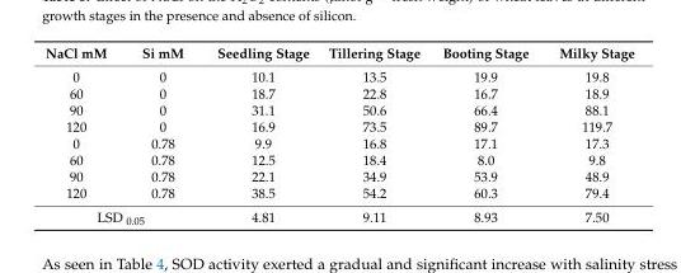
<table><thead><tr><td>NaCl mM</td><td>Si mM</td><td>Seedling Stage</td><td>Tillering Stage</td><td>Booting Stage</td><td>Milky Stage</td></tr></thead><tbody><tr><td>0</td><td>0</td><td>10.1</td><td>13.5</td><td>19.9</td><td>19.8</td></tr><tr><td>60</td><td>0</td><td>18.7</td><td>22.8</td><td>16.7</td><td>18.9</td></tr><tr><td>90</td><td>0</td><td>31.1</td><td>50.6</td><td>66.4</td><td>88.1</td></tr><tr><td>120</td><td>0</td><td>16.9</td><td>73.5</td><td>89.7</td><td>119.7</td></tr><tr><td>0</td><td>0.78</td><td>9.9</td><td>16.8</td><td>17.1</td><td>17.3</td></tr><tr><td>60</td><td>0.78</td><td>12.5</td><td>18.4</td><td>8.0</td><td>9.8</td></tr><tr><td>90</td><td>0.78</td><td>22.1</td><td>34.9</td><td>53.9</td><td>48.9</td></tr><tr><td>120</td><td>0.78</td><td>38.5</td><td>54.2</td><td>60.3</td><td>79.4</td></tr><tr><td colspan="2">LSD <sub>0.05</sub></td><td>4.81</td><td>9.11</td><td>8.93</td><td>7.50</td></tr></tbody></table>